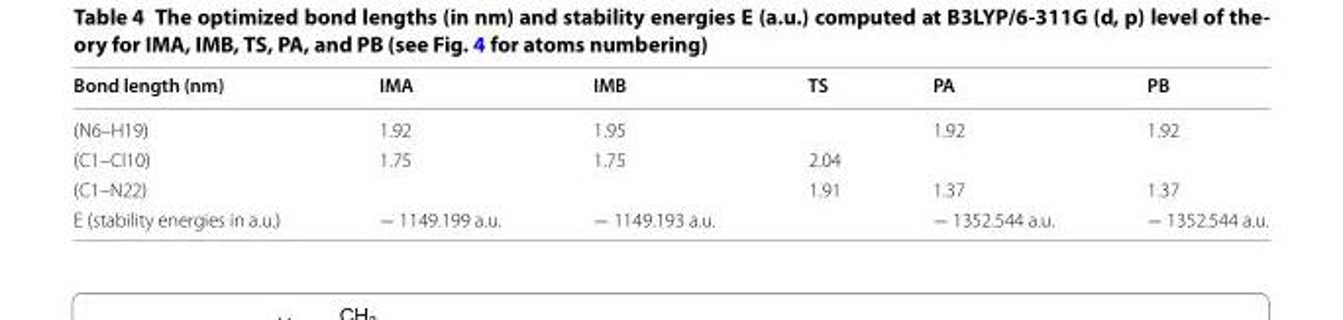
<table><thead><tr><td>Bond length (nm)</td><td>IMA</td><td>IMB</td><td>TS</td><td>PA</td><td>PB</td></tr></thead><tbody><tr><td>(N6–H19)</td><td>1.92</td><td>1.95</td><td></td><td>1.92</td><td>1.92</td></tr><tr><td>(C1–Cl10)</td><td>1.75</td><td>1.75</td><td>2.04</td><td></td><td></td></tr><tr><td>(C1–N22)</td><td></td><td></td><td>1.91</td><td>1.37</td><td>1.37</td></tr><tr><td>E (stability energies in a.u.)</td><td>− 1149.199 a.u.</td><td>− 1149.193 a.u.</td><td></td><td>− 1352.544 a.u.</td><td>− 1352.544 a.u.</td></tr></tbody></table>